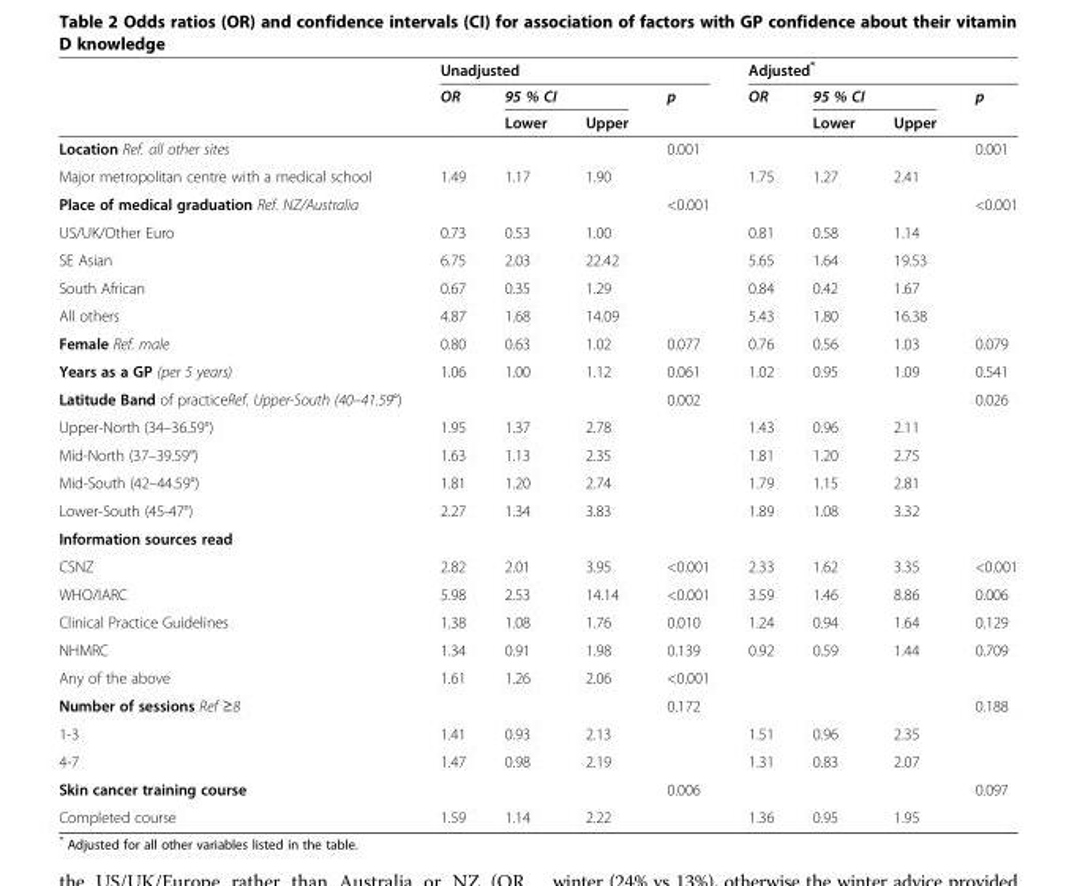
<table><thead><tr><td rowspan="3"></td><td colspan="4">Unadjusted</td><td colspan="4">Adjusted*</td></tr><tr><td rowspan="2">OR</td><td colspan="2">95 % CI</td><td rowspan="2">p</td><td rowspan="2">OR</td><td colspan="2">95 % CI</td><td rowspan="2">p</td></tr><tr><td>Lower</td><td>Upper</td><td>Lower</td><td>Upper</td></tr></thead><tbody><tr><td>Location Ref. all other sites</td><td></td><td></td><td></td><td>0.001</td><td></td><td></td><td></td><td>0.001</td></tr><tr><td>Major metropolitan centre with a medical school</td><td>1.49</td><td>1.17</td><td>1.90</td><td></td><td>1.75</td><td>1.27</td><td>2.41</td><td></td></tr><tr><td>Place of medical graduation Ref. NZ/Australia</td><td></td><td></td><td></td><td>&lt;0.001</td><td></td><td></td><td></td><td>&lt;0.001</td></tr><tr><td>US/UK/Other Euro</td><td>0.73</td><td>0.53</td><td>1.00</td><td></td><td>0.81</td><td>0.58</td><td>1.14</td><td></td></tr><tr><td>SE Asian</td><td>6.75</td><td>2.03</td><td>22.42</td><td></td><td>5.65</td><td>1.64</td><td>19.53</td><td></td></tr><tr><td>South African</td><td>0.67</td><td>0.35</td><td>1.29</td><td></td><td>0.84</td><td>0.42</td><td>1.67</td><td></td></tr><tr><td>All others</td><td>4.87</td><td>1.68</td><td>14.09</td><td></td><td>5.43</td><td>1.80</td><td>16.38</td><td></td></tr><tr><td>Female Ref. male</td><td>0.80</td><td>0.63</td><td>1.02</td><td>0.077</td><td>0.76</td><td>0.56</td><td>1.03</td><td>0.079</td></tr><tr><td>Years as a GP (per 5 years)</td><td>1.06</td><td>1.00</td><td>1.12</td><td>0.061</td><td>1.02</td><td>0.95</td><td>1.09</td><td>0.541</td></tr><tr><td>Latitude Band of practiceRef. Upper-South (40–41.59°)</td><td></td><td></td><td></td><td>0.002</td><td></td><td></td><td></td><td>0.026</td></tr><tr><td>Upper-North (34–36.59°)</td><td>1.95</td><td>1.37</td><td>2.78</td><td></td><td>1.43</td><td>0.96</td><td>2.11</td><td></td></tr><tr><td>Mid-North (37–39.59°)</td><td>1.63</td><td>1.13</td><td>2.35</td><td></td><td>1.81</td><td>1.20</td><td>2.75</td><td></td></tr><tr><td>Mid-South (42–44.59°)</td><td>1.81</td><td>1.20</td><td>2.74</td><td></td><td>1.79</td><td>1.15</td><td>2.81</td><td></td></tr><tr><td>Lower-South (45-47°)</td><td>2.27</td><td>1.34</td><td>3.83</td><td></td><td>1.89</td><td>1.08</td><td>3.32</td><td></td></tr><tr><td colspan="9">Information sources read</td></tr><tr><td>CSNZ</td><td>2.82</td><td>2.01</td><td>3.95</td><td>&lt;0.001</td><td>2.33</td><td>1.62</td><td>3.35</td><td>&lt;0.001</td></tr><tr><td>WHO/IARC</td><td>5.98</td><td>2.53</td><td>14.14</td><td>&lt;0.001</td><td>3.59</td><td>1.46</td><td>8.86</td><td>0.006</td></tr><tr><td>Clinical Practice Guidelines</td><td>1.38</td><td>1.08</td><td>1.76</td><td>0.010</td><td>1.24</td><td>0.94</td><td>1.64</td><td>0.129</td></tr><tr><td>NHMRC</td><td>1.34</td><td>0.91</td><td>1.98</td><td>0.139</td><td>0.92</td><td>0.59</td><td>1.44</td><td>0.709</td></tr><tr><td>Any of the above</td><td>1.61</td><td>1.26</td><td>2.06</td><td>&lt;0.001</td><td></td><td></td><td></td><td></td></tr><tr><td>Number of sessions Ref ≥8</td><td></td><td></td><td></td><td>0.172</td><td></td><td></td><td></td><td>0.188</td></tr><tr><td>1-3</td><td>1.41</td><td>0.93</td><td>2.13</td><td></td><td>1.51</td><td>0.96</td><td>2.35</td><td></td></tr><tr><td>4-7</td><td>1.47</td><td>0.98</td><td>2.19</td><td></td><td>1.31</td><td>0.83</td><td>2.07</td><td></td></tr><tr><td>Skin cancer training course</td><td></td><td></td><td></td><td>0.006</td><td></td><td></td><td></td><td>0.097</td></tr><tr><td>Completed course</td><td>1.59</td><td>1.14</td><td>2.22</td><td></td><td>1.36</td><td>0.95</td><td>1.95</td><td></td></tr></tbody></table>